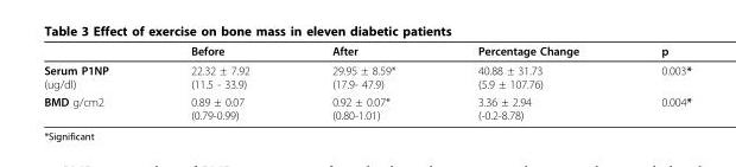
<table><thead><tr><td></td><td>Before</td><td>After</td><td>Percentage Change</td><td>p</td></tr></thead><tbody><tr><td>Serum P1NP (ug/dl)</td><td>22.32 ± 7.92 (11.5 - 33.9)</td><td>29.95 ± 8.59* (17.9- 47.9)</td><td>40.88 ± 31.73 (5.9 ± 107.76)</td><td>0.003*</td></tr><tr><td>BMD g/cm2</td><td>0.89 ± 0.07 (0.79-0.99)</td><td>0.92 ± 0.07* (0.80-1.01)</td><td>3.36 ± 2.94 (-0.2-8.78)</td><td>0.004*</td></tr></tbody></table>